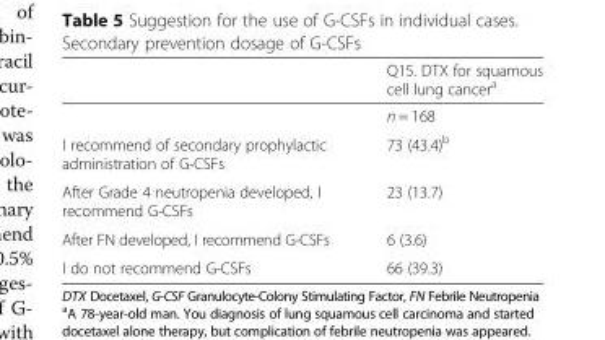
<table><thead><tr><td></td><td>Q15. DTX for squamous cell lung cancer<sup>a</sup></td></tr></thead><tbody><tr><td></td><td>n = 168</td></tr><tr><td>I recommend of secondary prophylactic administration of G-CSFs</td><td>73 (43.4)<sup>b</sup></td></tr><tr><td>After Grade 4 neutropenia developed, I recommend G-CSFs</td><td>23 (13.7)</td></tr><tr><td>After FN developed, I recommend G-CSFs</td><td>6 (3.6)</td></tr><tr><td>I do not recommend G-CSFs</td><td>66 (39.3)</td></tr></tbody></table>